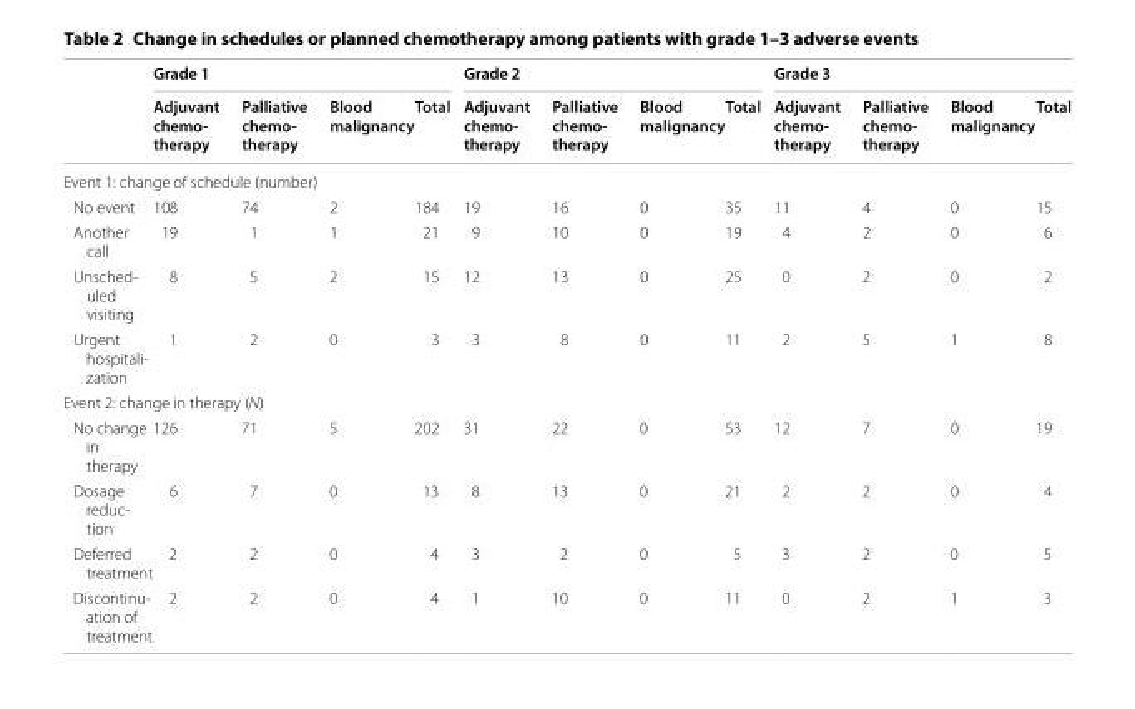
<table><thead><tr><td rowspan="2"></td><td colspan="4">Grade 1</td><td colspan="4">Grade 2</td><td colspan="4">Grade 3</td></tr><tr><td>Adjuvant chemo- therapy</td><td>Palliative chemo- therapy</td><td>Blood malignancy</td><td>Total</td><td>Adjuvant chemo- therapy</td><td>Palliative chemo- therapy</td><td>Blood malignancy</td><td>Total</td><td>Adjuvant chemo- therapy</td><td>Palliative chemo- therapy</td><td>Blood malignancy</td><td>Total</td></tr></thead><tbody><tr><td colspan="13">Event 1: change of schedule (number)</td></tr><tr><td>No event</td><td>108</td><td>74</td><td>2</td><td>184</td><td>19</td><td>16</td><td>0</td><td>35</td><td>11</td><td>4</td><td>0</td><td>15</td></tr><tr><td>Another call</td><td>19</td><td>1</td><td>1</td><td>21</td><td>9</td><td>10</td><td>0</td><td>19</td><td>4</td><td>2</td><td>0</td><td>6</td></tr><tr><td>Unsched‑ uled visiting</td><td>8</td><td>5</td><td>2</td><td>15</td><td>12</td><td>13</td><td>0</td><td>25</td><td>0</td><td>2</td><td>0</td><td>2</td></tr><tr><td>Urgent hospitali‑ zation</td><td>1</td><td>2</td><td>0</td><td>3</td><td>3</td><td>8</td><td>0</td><td>11</td><td>2</td><td>5</td><td>1</td><td>8</td></tr><tr><td colspan="13">Event 2: change in therapy (N)</td></tr><tr><td>No change in therapy</td><td>126</td><td>71</td><td>5</td><td>202</td><td>31</td><td>22</td><td>0</td><td>53</td><td>12</td><td>7</td><td>0</td><td>19</td></tr><tr><td>Dosage reduc‑ tion</td><td>6</td><td>7</td><td>0</td><td>13</td><td>8</td><td>13</td><td>0</td><td>21</td><td>2</td><td>2</td><td>0</td><td>4</td></tr><tr><td>Deferred treatment</td><td>2</td><td>2</td><td>0</td><td>4</td><td>3</td><td>2</td><td>0</td><td>5</td><td>3</td><td>2</td><td>0</td><td>5</td></tr><tr><td>Discontinu‑ ation of treatment</td><td>2</td><td>2</td><td>0</td><td>4</td><td>1</td><td>10</td><td>0</td><td>11</td><td>0</td><td>2</td><td>1</td><td>3</td></tr></tbody></table>